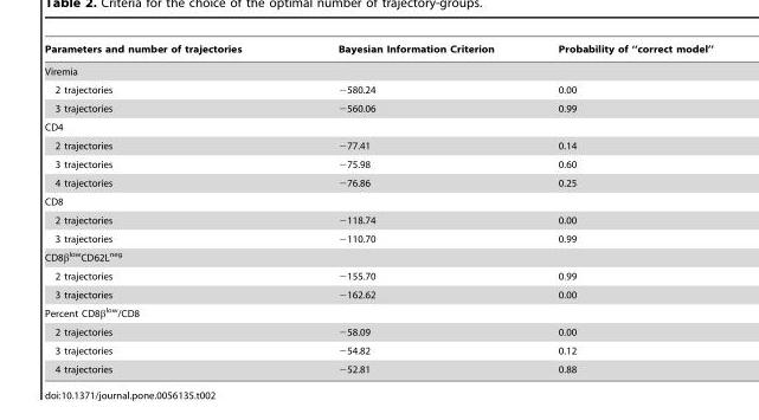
<table><thead><tr><td>Parameters and number of trajectories</td><td>Bayesian Information Criterion</td><td>Probability of ‘‘correct model’’</td></tr></thead><tbody><tr><td colspan="3">Viremia</td></tr><tr><td>2 trajectories</td><td>−580.24</td><td>0.00</td></tr><tr><td>3 trajectories</td><td>−560.06</td><td>0.99</td></tr><tr><td colspan="3">CD4</td></tr><tr><td>2 trajectories</td><td>−77.41</td><td>0.14</td></tr><tr><td>3 trajectories</td><td>−75.98</td><td>0.60</td></tr><tr><td>4 trajectories</td><td>−76.86</td><td>0.25</td></tr><tr><td colspan="3">CD8</td></tr><tr><td>2 trajectories</td><td>−118.74</td><td>0.00</td></tr><tr><td>3 trajectories</td><td>−110.70</td><td>0.99</td></tr><tr><td colspan="3">CD8β<sup>low</sup>CD62L<sup>neg</sup></td></tr><tr><td>2 trajectories</td><td>−155.70</td><td>0.99</td></tr><tr><td>3 trajectories</td><td>−162.62</td><td>0.00</td></tr><tr><td colspan="3">Percent CD8β<sup>low</sup>/CD8</td></tr><tr><td>2 trajectories</td><td>−58.09</td><td>0.00</td></tr><tr><td>3 trajectories</td><td>−54.82</td><td>0.12</td></tr><tr><td>4 trajectories</td><td>−52.81</td><td>0.88</td></tr></tbody></table>